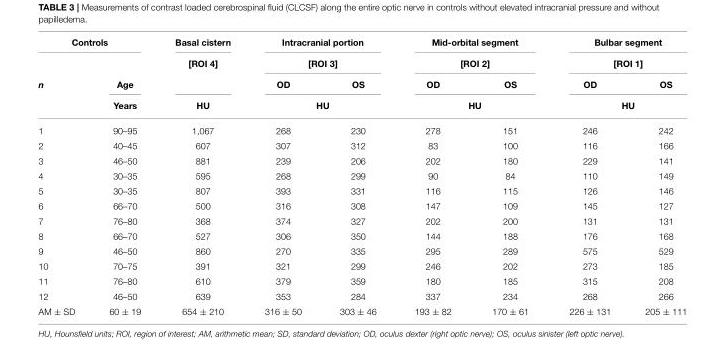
<table><thead><tr><td colspan="2">Controls</td><td rowspan="4">Basal cistern [ROI 4] HU</td><td rowspan="2" colspan="2">Intracranial portion [ROI 3]</td><td rowspan="2" colspan="2">Mid-orbital segment [ROI 2]</td><td rowspan="2" colspan="2">Bulbar segment [ROI 1]</td></tr><tr><td rowspan="3">n</td><td rowspan="3">Age Years</td></tr><tr><td>OD</td><td>OS</td><td>OD</td><td>OS</td><td>OD</td><td>OS</td></tr><tr><td colspan="2">HU</td><td colspan="2">HU</td><td colspan="2">HU</td></tr></thead><tbody><tr><td>1</td><td>90–95</td><td>1,067</td><td>268</td><td>230</td><td>278</td><td>151</td><td>246</td><td>242</td></tr><tr><td>2</td><td>40–45</td><td>607</td><td>307</td><td>312</td><td>83</td><td>100</td><td>116</td><td>166</td></tr><tr><td>3</td><td>46–50</td><td>881</td><td>239</td><td>206</td><td>202</td><td>180</td><td>229</td><td>141</td></tr><tr><td>4</td><td>30–35</td><td>595</td><td>268</td><td>299</td><td>90</td><td>84</td><td>110</td><td>149</td></tr><tr><td>5</td><td>30–35</td><td>807</td><td>393</td><td>331</td><td>116</td><td>115</td><td>126</td><td>146</td></tr><tr><td>6</td><td>66–70</td><td>500</td><td>316</td><td>308</td><td>147</td><td>109</td><td>145</td><td>127</td></tr><tr><td>7</td><td>76–80</td><td>368</td><td>374</td><td>327</td><td>202</td><td>200</td><td>131</td><td>131</td></tr><tr><td>8</td><td>66–70</td><td>527</td><td>306</td><td>350</td><td>144</td><td>188</td><td>176</td><td>168</td></tr><tr><td>9</td><td>46–50</td><td>860</td><td>270</td><td>335</td><td>295</td><td>289</td><td>575</td><td>529</td></tr><tr><td>10</td><td>70–75</td><td>391</td><td>321</td><td>299</td><td>246</td><td>202</td><td>273</td><td>185</td></tr><tr><td>11</td><td>76–80</td><td>610</td><td>379</td><td>359</td><td>180</td><td>185</td><td>315</td><td>208</td></tr><tr><td>12</td><td>46–50</td><td>639</td><td>353</td><td>284</td><td>337</td><td>234</td><td>268</td><td>266</td></tr><tr><td>AM ± SD</td><td>60 ± 19</td><td>654 ± 210</td><td>316 ± 50</td><td>303 ± 46</td><td>193 ± 82</td><td>170 ± 61</td><td>226 ± 131</td><td>205 ± 111</td></tr></tbody></table>